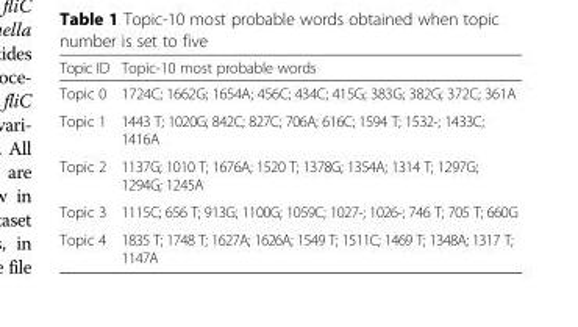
<table><thead><tr><td>Topic ID</td><td>Topic-10 most probable words</td></tr></thead><tbody><tr><td>Topic 0</td><td>1724C; 1662G; 1654A; 456C; 434C; 415G; 383G; 382G; 372C; 361A</td></tr><tr><td>Topic 1</td><td>1443 T; 1020G; 842C; 827C; 706A; 616C; 1594 T; 1532-; 1433C; 1416A</td></tr><tr><td>Topic 2</td><td>1137G; 1010 T; 1676A; 1520 T; 1378G; 1354A; 1314 T; 1297G; 1294G; 1245A</td></tr><tr><td>Topic 3</td><td>1115C; 656 T; 913G; 1100G; 1059C; 1027-; 1026-; 746 T; 705 T; 660G</td></tr><tr><td>Topic 4</td><td>1835 T; 1748 T; 1627A; 1626A; 1549 T; 1511C; 1469 T; 1348A; 1317 T; 1147A</td></tr></tbody></table>